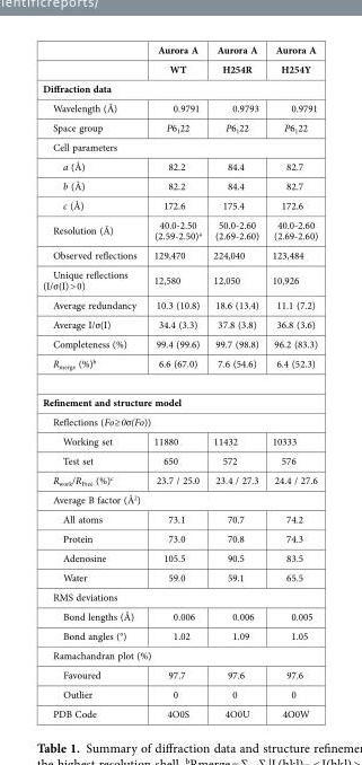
<table><thead><tr><td></td><td>Aurora A</td><td>Aurora A</td><td>Aurora A</td></tr></thead><tbody><tr><td></td><td>WT</td><td>H254R</td><td>H254Y</td></tr><tr><td colspan="4">Diffraction data</td></tr><tr><td>Wavelength (Å)</td><td>0.9791</td><td>0.9793</td><td>0.9791</td></tr><tr><td>Space group</td><td>P6<sub>1</sub>22</td><td>P6<sub>1</sub>22</td><td>P6<sub>1</sub>22</td></tr><tr><td colspan="4">Cell parameters</td></tr><tr><td>a (Å)</td><td>82.2</td><td>84.4</td><td>82.7</td></tr><tr><td>b (Å)</td><td>82.2</td><td>84.4</td><td>82.7</td></tr><tr><td>c (Å)</td><td>172.6</td><td>175.4</td><td>172.6</td></tr><tr><td>Resolution (Å)</td><td>40.0-2.50 (2.59-2.50)<sup>a</sup></td><td>50.0-2.60 (2.69-2.60)</td><td>40.0-2.60 (2.69-2.60)</td></tr><tr><td>Observed reflections</td><td>129,470</td><td>224,040</td><td>123,484</td></tr><tr><td>Unique reflections (I/σ(I) &gt; 0)</td><td>12,580</td><td>12,050</td><td>10,926</td></tr><tr><td>Average redundancy</td><td>10.3 (10.8)</td><td>18.6 (13.4)</td><td>11.1 (7.2)</td></tr><tr><td>Average I/σ(I)</td><td>34.4 (3.3)</td><td>37.8 (3.8)</td><td>36.8 (3.6)</td></tr><tr><td>Completeness (%)</td><td>99.4 (99.6)</td><td>99.7 (98.8)</td><td>96.2 (83.3)</td></tr><tr><td>R<sub>merge</sub> (%)<sup>b</sup></td><td>6.6 (67.0)</td><td>7.6 (54.6)</td><td>6.4 (52.3)</td></tr><tr><td colspan="4">Refinement and structure model</td></tr><tr><td colspan="4">Reflections (Fo≥0σ(Fo))</td></tr><tr><td>Working set</td><td>11880</td><td>11432</td><td>10333</td></tr><tr><td>Test set</td><td>650</td><td>572</td><td>576</td></tr><tr><td>R<sub>work</sub>/R<sub>Free</sub> (%)<sup>c</sup></td><td>23.7 / 25.0</td><td>23.4 / 27.3</td><td>24.4 / 27.6</td></tr><tr><td colspan="4">Average B factor (Å<sup>2</sup>)</td></tr><tr><td>All atoms</td><td>73.1</td><td>70.7</td><td>74.2</td></tr><tr><td>Protein</td><td>73.0</td><td>70.8</td><td>74.3</td></tr><tr><td>Adenosine</td><td>105.5</td><td>90.5</td><td>83.5</td></tr><tr><td>Water</td><td>59.0</td><td>59.1</td><td>65.5</td></tr><tr><td colspan="4">RMS deviations</td></tr><tr><td>Bond lengths (Å)</td><td>0.006</td><td>0.006</td><td>0.005</td></tr><tr><td>Bond angles (°)</td><td>1.02</td><td>1.09</td><td>1.05</td></tr><tr><td colspan="4">Ramachandran plot (%)</td></tr><tr><td>Favoured</td><td>97.7</td><td>97.6</td><td>97.6</td></tr><tr><td>Outlier</td><td>0</td><td>0</td><td>0</td></tr><tr><td>PDB Code</td><td>4O0S</td><td>4O0U</td><td>4O0W</td></tr></tbody></table>